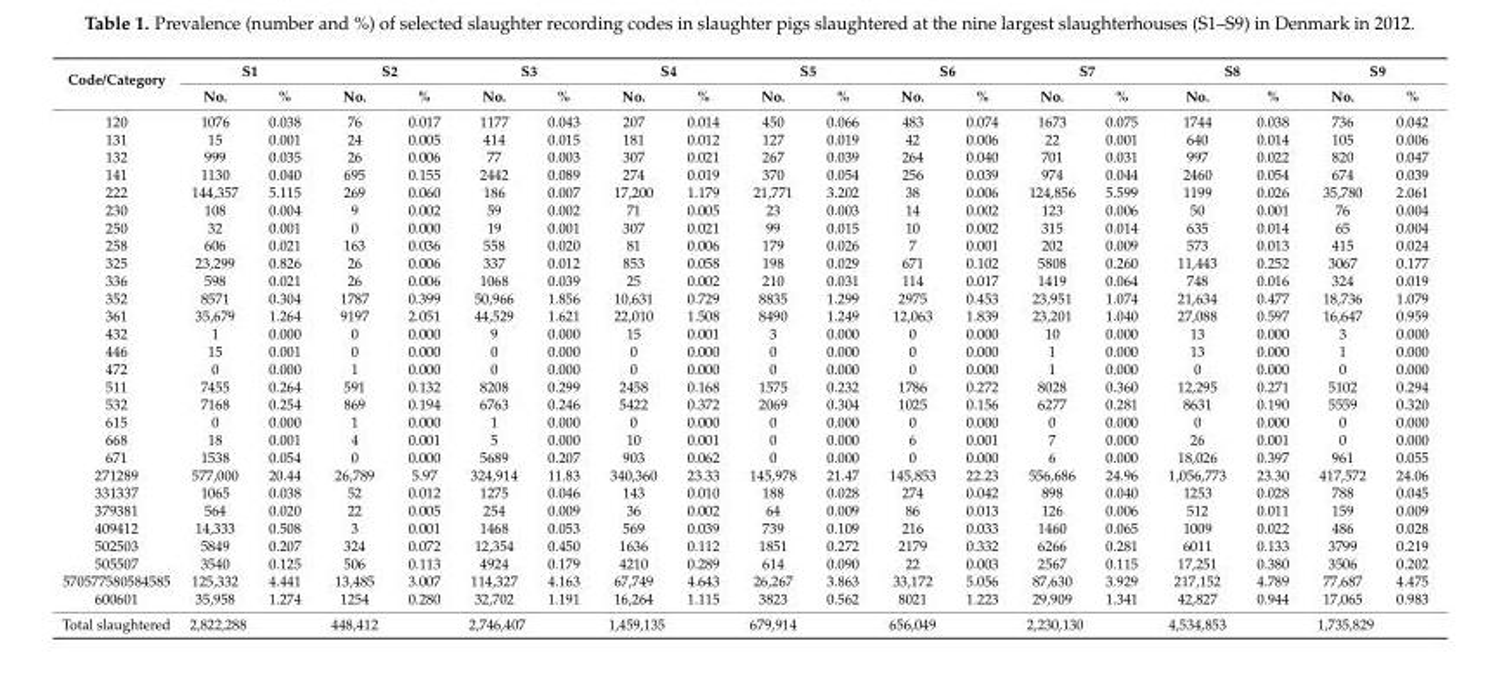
<table><thead><tr><td rowspan="2">Code/Category</td><td colspan="2">S1</td><td colspan="2">S2</td><td colspan="2">S3</td><td colspan="2">S4</td><td colspan="2">S5</td><td colspan="2">S6</td><td colspan="2">S7</td><td colspan="2">S8</td><td colspan="2">S9</td></tr><tr><td>No.</td><td>%</td><td>No.</td><td>%</td><td>No.</td><td>%</td><td>No.</td><td>%</td><td>No.</td><td>%</td><td>No.</td><td>%</td><td>No.</td><td>%</td><td>No.</td><td>%</td><td>No.</td><td>%</td></tr></thead><tbody><tr><td>120</td><td>1076</td><td>0.038</td><td>76</td><td>0.017</td><td>1177</td><td>0.043</td><td>207</td><td>0.014</td><td>450</td><td>0.066</td><td>483</td><td>0.074</td><td>1673</td><td>0.075</td><td>1744</td><td>0.038</td><td>736</td><td>0.042</td></tr><tr><td>131</td><td>15</td><td>0.001</td><td>24</td><td>0.005</td><td>414</td><td>0.015</td><td>181</td><td>0.012</td><td>127</td><td>0.019</td><td>42</td><td>0.006</td><td>22</td><td>0.001</td><td>640</td><td>0.014</td><td>105</td><td>0.006</td></tr><tr><td>132</td><td>999</td><td>0.035</td><td>26</td><td>0.006</td><td>77</td><td>0.003</td><td>307</td><td>0.021</td><td>267</td><td>0.039</td><td>264</td><td>0.040</td><td>701</td><td>0.031</td><td>997</td><td>0.022</td><td>820</td><td>0.047</td></tr><tr><td>141</td><td>1130</td><td>0.040</td><td>695</td><td>0.155</td><td>2442</td><td>0.089</td><td>274</td><td>0.019</td><td>370</td><td>0.054</td><td>256</td><td>0.039</td><td>974</td><td>0.044</td><td>2460</td><td>0.054</td><td>674</td><td>0.039</td></tr><tr><td>222</td><td>144,357</td><td>5.115</td><td>269</td><td>0.060</td><td>186</td><td>0.007</td><td>17,200</td><td>1.179</td><td>21,771</td><td>3.202</td><td>38</td><td>0.006</td><td>124,856</td><td>5.599</td><td>1199</td><td>0.026</td><td>35,780</td><td>2.061</td></tr><tr><td>230</td><td>108</td><td>0.004</td><td>9</td><td>0.002</td><td>59</td><td>0.002</td><td>71</td><td>0.005</td><td>23</td><td>0.003</td><td>14</td><td>0.002</td><td>123</td><td>0.006</td><td>50</td><td>0.001</td><td>76</td><td>0.004</td></tr><tr><td>250</td><td>32</td><td>0.001</td><td>0</td><td>0.000</td><td>19</td><td>0.001</td><td>307</td><td>0.021</td><td>99</td><td>0.015</td><td>10</td><td>0.002</td><td>315</td><td>0.014</td><td>635</td><td>0.014</td><td>65</td><td>0.004</td></tr><tr><td>258</td><td>606</td><td>0.021</td><td>163</td><td>0.036</td><td>558</td><td>0.020</td><td>81</td><td>0.006</td><td>179</td><td>0.026</td><td>7</td><td>0.001</td><td>202</td><td>0.009</td><td>573</td><td>0.013</td><td>415</td><td>0.024</td></tr><tr><td>325</td><td>23,299</td><td>0.826</td><td>26</td><td>0.006</td><td>337</td><td>0.012</td><td>853</td><td>0.058</td><td>198</td><td>0.029</td><td>671</td><td>0.102</td><td>5808</td><td>0.260</td><td>11,443</td><td>0.252</td><td>3067</td><td>0.177</td></tr><tr><td>336</td><td>598</td><td>0.021</td><td>26</td><td>0.006</td><td>1068</td><td>0.039</td><td>25</td><td>0.002</td><td>210</td><td>0.031</td><td>114</td><td>0.017</td><td>1419</td><td>0.064</td><td>748</td><td>0.016</td><td>324</td><td>0.019</td></tr><tr><td>352</td><td>8571</td><td>0.304</td><td>1787</td><td>0.399</td><td>50,966</td><td>1.856</td><td>10,631</td><td>0.729</td><td>8835</td><td>1.299</td><td>2975</td><td>0.453</td><td>23,951</td><td>1.074</td><td>21,634</td><td>0.477</td><td>18,736</td><td>1.079</td></tr><tr><td>361</td><td>35,679</td><td>1.264</td><td>9197</td><td>2.051</td><td>44,529</td><td>1.621</td><td>22,010</td><td>1.508</td><td>8490</td><td>1.249</td><td>12,063</td><td>1.839</td><td>23,201</td><td>1.040</td><td>27,088</td><td>0.597</td><td>16,647</td><td>0.959</td></tr><tr><td>432</td><td>1</td><td>0.000</td><td>0</td><td>0.000</td><td>9</td><td>0.000</td><td>15</td><td>0.001</td><td>3</td><td>0.000</td><td>0</td><td>0.000</td><td>10</td><td>0.000</td><td>13</td><td>0.000</td><td>3</td><td>0.000</td></tr><tr><td>446</td><td>15</td><td>0.001</td><td>0</td><td>0.000</td><td>0</td><td>0.000</td><td>0</td><td>0.000</td><td>0</td><td>0.000</td><td>0</td><td>0.000</td><td>1</td><td>0.000</td><td>13</td><td>0.000</td><td>1</td><td>0.000</td></tr><tr><td>472</td><td>0</td><td>0.000</td><td>1</td><td>0.000</td><td>0</td><td>0.000</td><td>0</td><td>0.000</td><td>0</td><td>0.000</td><td>0</td><td>0.000</td><td>1</td><td>0.000</td><td>0</td><td>0.000</td><td>0</td><td>0.000</td></tr><tr><td>511</td><td>7455</td><td>0.264</td><td>591</td><td>0.132</td><td>8208</td><td>0.299</td><td>2458</td><td>0.168</td><td>1575</td><td>0.232</td><td>1786</td><td>0.272</td><td>8028</td><td>0.360</td><td>12,295</td><td>0.271</td><td>5102</td><td>0.294</td></tr><tr><td>532</td><td>7168</td><td>0.254</td><td>869</td><td>0.194</td><td>6763</td><td>0.246</td><td>5422</td><td>0.372</td><td>2069</td><td>0.304</td><td>1025</td><td>0.156</td><td>6277</td><td>0.281</td><td>8631</td><td>0.190</td><td>5559</td><td>0.320</td></tr><tr><td>615</td><td>0</td><td>0.000</td><td>1</td><td>0.000</td><td>1</td><td>0.000</td><td>0</td><td>0.000</td><td>0</td><td>0.000</td><td>0</td><td>0.000</td><td>0</td><td>0.000</td><td>0</td><td>0.000</td><td>0</td><td>0.000</td></tr><tr><td>668</td><td>18</td><td>0.001</td><td>4</td><td>0.001</td><td>5</td><td>0.000</td><td>10</td><td>0.001</td><td>0</td><td>0.000</td><td>6</td><td>0.001</td><td>7</td><td>0.000</td><td>26</td><td>0.001</td><td>0</td><td>0.000</td></tr><tr><td>671</td><td>1538</td><td>0.054</td><td>0</td><td>0.000</td><td>5689</td><td>0.207</td><td>903</td><td>0.062</td><td>0</td><td>0.000</td><td>0</td><td>0.000</td><td>6</td><td>0.000</td><td>18,026</td><td>0.397</td><td>961</td><td>0.055</td></tr><tr><td>271289</td><td>577,000</td><td>20.44</td><td>26,789</td><td>5.97</td><td>324,914</td><td>11.83</td><td>340,360</td><td>23.33</td><td>145,978</td><td>21.47</td><td>145,853</td><td>22.23</td><td>556,686</td><td>24.96</td><td>1,056,773</td><td>23.30</td><td>417,572</td><td>24.06</td></tr><tr><td>331337</td><td>1065</td><td>0.038</td><td>52</td><td>0.012</td><td>1275</td><td>0.046</td><td>143</td><td>0.010</td><td>188</td><td>0.028</td><td>274</td><td>0.042</td><td>898</td><td>0.040</td><td>1253</td><td>0.028</td><td>788</td><td>0.045</td></tr><tr><td>379381</td><td>564</td><td>0.020</td><td>22</td><td>0.005</td><td>254</td><td>0.009</td><td>36</td><td>0.002</td><td>64</td><td>0.009</td><td>86</td><td>0.013</td><td>126</td><td>0.006</td><td>512</td><td>0.011</td><td>159</td><td>0.009</td></tr><tr><td>409412</td><td>14,333</td><td>0.508</td><td>3</td><td>0.001</td><td>1468</td><td>0.053</td><td>569</td><td>0.039</td><td>739</td><td>0.109</td><td>216</td><td>0.033</td><td>1460</td><td>0.065</td><td>1009</td><td>0.022</td><td>486</td><td>0.028</td></tr><tr><td>502503</td><td>5849</td><td>0.207</td><td>324</td><td>0.072</td><td>12,354</td><td>0.450</td><td>1636</td><td>0.112</td><td>1851</td><td>0.272</td><td>2179</td><td>0.332</td><td>6266</td><td>0.281</td><td>6011</td><td>0.133</td><td>3799</td><td>0.219</td></tr><tr><td>505507</td><td>3540</td><td>0.125</td><td>506</td><td>0.113</td><td>4924</td><td>0.179</td><td>4210</td><td>0.289</td><td>614</td><td>0.090</td><td>22</td><td>0.003</td><td>2567</td><td>0.115</td><td>17,251</td><td>0.380</td><td>3506</td><td>0.202</td></tr><tr><td>570577580584585</td><td>125,332</td><td>4.441</td><td>13,485</td><td>3.007</td><td>114,327</td><td>4.163</td><td>67,749</td><td>4.643</td><td>26,267</td><td>3.863</td><td>33,172</td><td>5.056</td><td>87,630</td><td>3.929</td><td>217,152</td><td>4.789</td><td>77,687</td><td>4.475</td></tr><tr><td>600601</td><td>35,958</td><td>1.274</td><td>1254</td><td>0.280</td><td>32,702</td><td>1.191</td><td>16,264</td><td>1.115</td><td>3823</td><td>0.562</td><td>8021</td><td>1.223</td><td>29,909</td><td>1.341</td><td>42,827</td><td>0.944</td><td>17,065</td><td>0.983</td></tr><tr><td>Total slaughtered</td><td>2,822,288</td><td></td><td>448,412</td><td></td><td>2,746,407</td><td></td><td>1,459,135</td><td></td><td>679,914</td><td></td><td>656,049</td><td></td><td>2,230,130</td><td></td><td>4,534,853</td><td></td><td>1,735,829</td><td></td></tr></tbody></table>